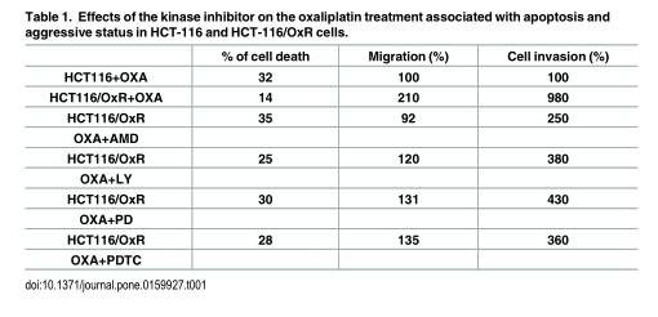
<table><thead><tr><td></td><td>% of cell death</td><td>Migration (%)</td><td>Cell invasion (%)</td></tr></thead><tbody><tr><td>HCT116+OXA</td><td>32</td><td>100</td><td>100</td></tr><tr><td>HCT116/OxR+OXA</td><td>14</td><td>210</td><td>980</td></tr><tr><td>HCT116/OxR</td><td>35</td><td>92</td><td>250</td></tr><tr><td colspan="4">OXA+AMD</td></tr><tr><td>HCT116/OxR</td><td>25</td><td>120</td><td>380</td></tr><tr><td colspan="4">OXA+LY</td></tr><tr><td>HCT116/OxR</td><td>30</td><td>131</td><td>430</td></tr><tr><td colspan="4">OXA+PD</td></tr><tr><td>HCT116/OxR</td><td>28</td><td>135</td><td>360</td></tr><tr><td>OXA+PDTC</td><td></td><td></td><td></td></tr></tbody></table>